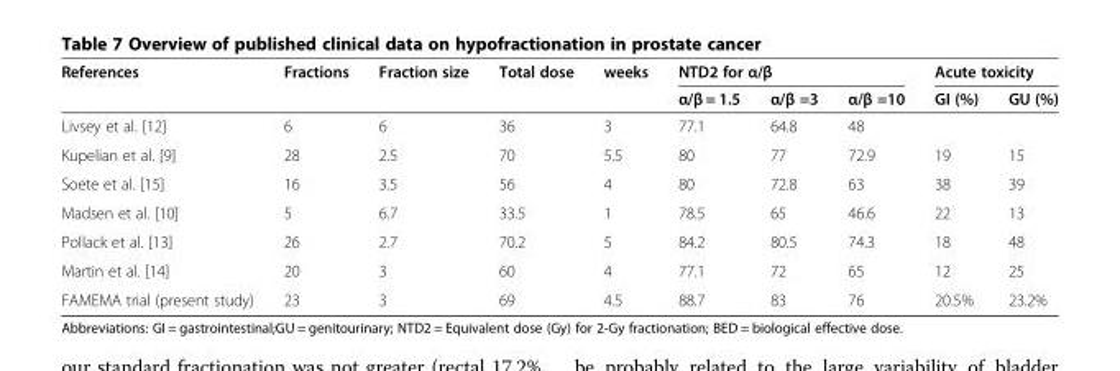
<table><thead><tr><td rowspan="2">References</td><td rowspan="2">Fractions</td><td rowspan="2">Fraction size</td><td rowspan="2">Total dose</td><td rowspan="2">weeks</td><td colspan="3">NTD2 for α/β</td><td colspan="2">Acute toxicity</td></tr><tr><td>α/β = 1.5</td><td>α/β =3</td><td>α/β =10</td><td>GI (%)</td><td>GU (%)</td></tr></thead><tbody><tr><td>Livsey et al. [12]</td><td>6</td><td>6</td><td>36</td><td>3</td><td>77.1</td><td>64.8</td><td>48</td><td></td><td></td></tr><tr><td>Kupelian et al. [9]</td><td>28</td><td>2.5</td><td>70</td><td>5.5</td><td>80</td><td>77</td><td>72.9</td><td>19</td><td>15</td></tr><tr><td>Soete et al. [15]</td><td>16</td><td>3.5</td><td>56</td><td>4</td><td>80</td><td>72.8</td><td>63</td><td>38</td><td>39</td></tr><tr><td>Madsen et al. [10]</td><td>5</td><td>6.7</td><td>33.5</td><td>1</td><td>78.5</td><td>65</td><td>46.6</td><td>22</td><td>13</td></tr><tr><td>Pollack et al. [13]</td><td>26</td><td>2.7</td><td>70.2</td><td>5</td><td>84.2</td><td>80.5</td><td>74.3</td><td>18</td><td>48</td></tr><tr><td>Martin et al. [14]</td><td>20</td><td>3</td><td>60</td><td>4</td><td>77.1</td><td>72</td><td>65</td><td>12</td><td>25</td></tr><tr><td>FAMEMA trial (present study)</td><td>23</td><td>3</td><td>69</td><td>4.5</td><td>88.7</td><td>83</td><td>76</td><td>20.5%</td><td>23.2%</td></tr></tbody></table>